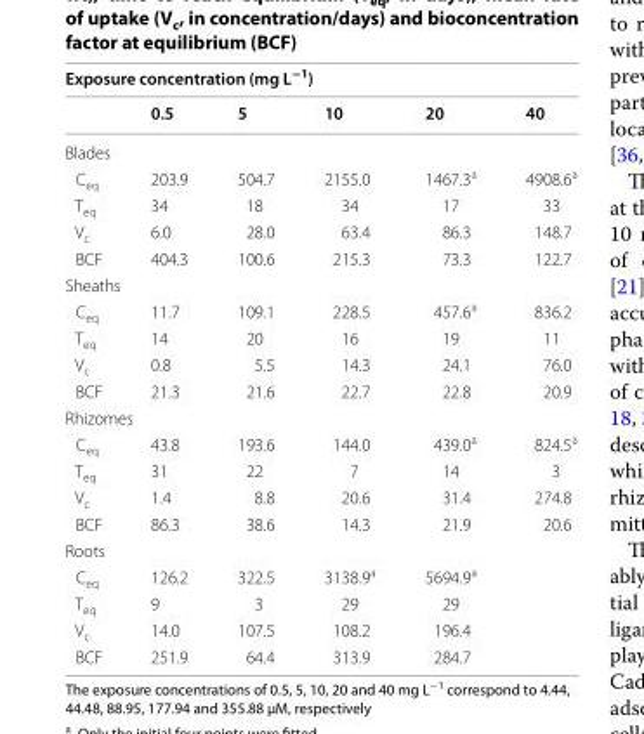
<table><thead><tr><td colspan="6">Exposure concentration (mg L<sup>−1</sup>)</td></tr><tr><td></td><td>0.5</td><td>5</td><td>10</td><td>20</td><td>40</td></tr></thead><tbody><tr><td colspan="6">Blades</td></tr><tr><td>C<sub>eq</sub></td><td>203.9</td><td>504.7</td><td>2155.0</td><td>1467.3<sup>a</sup></td><td>4908.6<sup>a</sup></td></tr><tr><td>T<sub>eq</sub></td><td>34</td><td>18</td><td>34</td><td>17</td><td>33</td></tr><tr><td>V<sub>c</sub></td><td>6.0</td><td>28.0</td><td>63.4</td><td>86.3</td><td>148.7</td></tr><tr><td>BCF</td><td>404.3</td><td>100.6</td><td>215.3</td><td>73.3</td><td>122.7</td></tr><tr><td colspan="6">Sheaths</td></tr><tr><td>C<sub>eq</sub></td><td>11.7</td><td>109.1</td><td>228.5</td><td>457.6<sup>a</sup></td><td>836.2</td></tr><tr><td>T<sub>eq</sub></td><td>14</td><td>20</td><td>16</td><td>19</td><td>11</td></tr><tr><td>V<sub>c</sub></td><td>0.8</td><td>5.5</td><td>14.3</td><td>24.1</td><td>76.0</td></tr><tr><td>BCF</td><td>21.3</td><td>21.6</td><td>22.7</td><td>22.8</td><td>20.9</td></tr><tr><td colspan="6">Rhizomes</td></tr><tr><td>C<sub>eq</sub></td><td>43.8</td><td>193.6</td><td>144.0</td><td>439.0<sup>a</sup></td><td>824.5<sup>a</sup></td></tr><tr><td>T<sub>eq</sub></td><td>31</td><td>22</td><td>7</td><td>14</td><td>3</td></tr><tr><td>V<sub>c</sub></td><td>1.4</td><td>8.8</td><td>20.6</td><td>31.4</td><td>274.8</td></tr><tr><td>BCF</td><td>86.3</td><td>38.6</td><td>14.3</td><td>21.9</td><td>20.6</td></tr><tr><td colspan="6">Roots</td></tr><tr><td>C<sub>eq</sub></td><td>126.2</td><td>322.5</td><td>3138.9<sup>a</sup></td><td>5694.9<sup>a</sup></td><td></td></tr><tr><td>T<sub>eq</sub></td><td>9</td><td>3</td><td>29</td><td>29</td><td></td></tr><tr><td>V<sub>c</sub></td><td>14.0</td><td>107.5</td><td>108.2</td><td>196.4</td><td></td></tr><tr><td>BCF</td><td>251.9</td><td>64.4</td><td>313.9</td><td>284.7</td><td></td></tr></tbody></table>